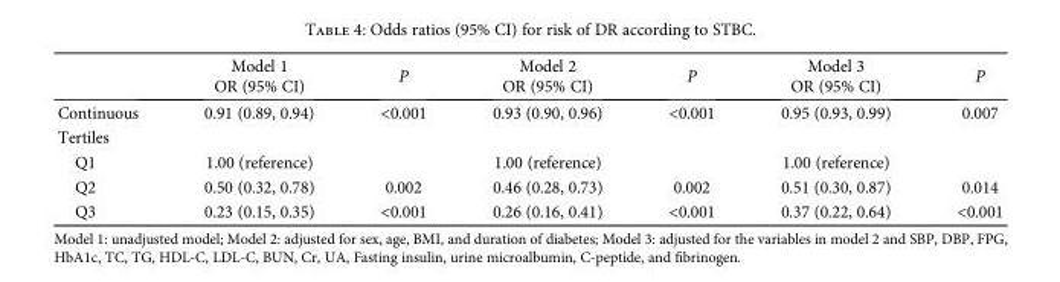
<table><thead><tr><td rowspan="2"></td><td rowspan="2">Model 1 OR (95% CI)</td><td rowspan="2">P</td><td rowspan="2">Model 2 OR (95% CI)</td><td rowspan="2">P</td><td rowspan="2">Model 3 OR (95% CI)</td><td rowspan="2">P</td></tr><tr></tr></thead><tbody><tr><td>Continuous</td><td>0.91 (0.89, 0.94)</td><td>&lt;0.001</td><td>0.93 (0.90, 0.96)</td><td>&lt;0.001</td><td>0.95 (0.93, 0.99)</td><td>0.007</td></tr><tr><td colspan="7">Tertiles</td></tr><tr><td>Q1</td><td>1.00 (reference)</td><td></td><td>1.00 (reference)</td><td></td><td>1.00 (reference)</td><td></td></tr><tr><td>Q2</td><td>0.50 (0.32, 0.78)</td><td>0.002</td><td>0.46 (0.28, 0.73)</td><td>0.002</td><td>0.51 (0.30, 0.87)</td><td>0.014</td></tr><tr><td>Q3</td><td>0.23 (0.15, 0.35)</td><td>&lt;0.001</td><td>0.26 (0.16, 0.41)</td><td>&lt;0.001</td><td>0.37 (0.22, 0.64)</td><td>&lt;0.001</td></tr></tbody></table>